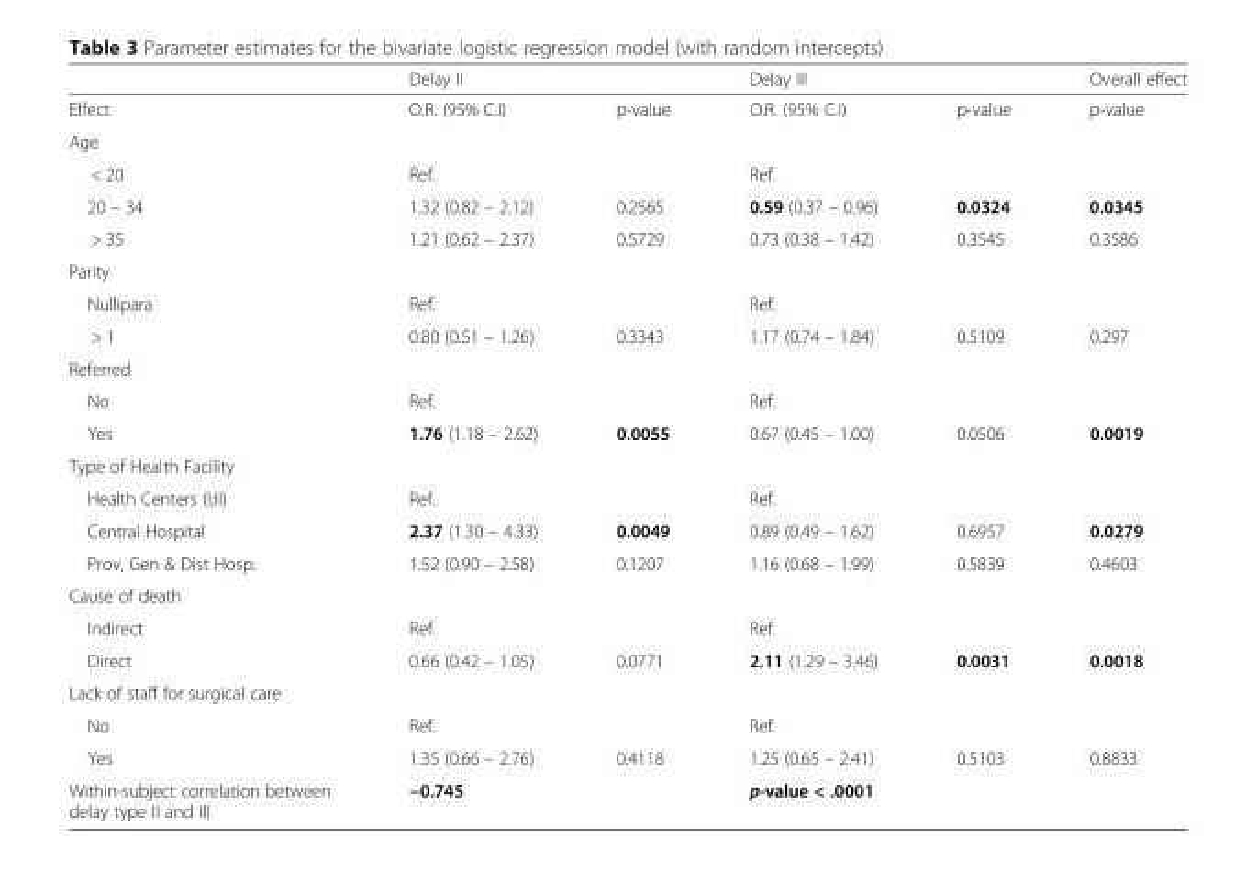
<table><thead><tr><td rowspan="2">Effect</td><td colspan="2">Delay II</td><td colspan="2">Delay III</td><td rowspan="2">Overall effect p-value</td></tr><tr><td>O.R. (95% C.I)</td><td>p-value</td><td>O.R. (95% C.I)</td><td>p-value</td></tr></thead><tbody><tr><td colspan="6">Age</td></tr><tr><td>&lt; 20</td><td>Ref.</td><td></td><td>Ref.</td><td></td><td></td></tr><tr><td>20 – 34</td><td>1.32 (0.82 – 2.12)</td><td>0.2565</td><td>0.59 (0.37 – 0.96)</td><td>0.0324</td><td>0.0345</td></tr><tr><td>&gt; 35</td><td>1.21 (0.62 – 2.37)</td><td>0.5729</td><td>0.73 (0.38 – 1.42)</td><td>0.3545</td><td>0.3586</td></tr><tr><td colspan="6">Parity</td></tr><tr><td>Nullipara</td><td>Ref.</td><td></td><td>Ref.</td><td></td><td></td></tr><tr><td>&gt; 1</td><td>0.80 (0.51 – 1.26)</td><td>0.3343</td><td>1.17 (0.74 – 1.84)</td><td>0.5109</td><td>0.297</td></tr><tr><td colspan="6">Referred</td></tr><tr><td>No</td><td>Ref.</td><td></td><td>Ref.</td><td></td><td></td></tr><tr><td>Yes</td><td>1.76 (1.18 – 2.62)</td><td>0.0055</td><td>0.67 (0.45 – 1.00)</td><td>0.0506</td><td>0.0019</td></tr><tr><td colspan="6">Type of Health Facility</td></tr><tr><td>Health Centers (I;II)</td><td>Ref.</td><td></td><td>Ref.</td><td></td><td></td></tr><tr><td>Central Hospital</td><td>2.37 (1.30 – 4.33)</td><td>0.0049</td><td>0.89 (0.49 – 1.62)</td><td>0.6957</td><td>0.0279</td></tr><tr><td>Prov, Gen &amp; Dist Hosp.</td><td>1.52 (0.90 – 2.58)</td><td>0.1207</td><td>1.16 (0.68 – 1.99)</td><td>0.5839</td><td>0.4603</td></tr><tr><td colspan="6">Cause of death</td></tr><tr><td>Indirect</td><td>Ref.</td><td></td><td>Ref.</td><td></td><td></td></tr><tr><td>Direct</td><td>0.66 (0.42 – 1.05)</td><td>0.0771</td><td>2.11 (1.29 – 3.46)</td><td>0.0031</td><td>0.0018</td></tr><tr><td colspan="6">Lack of staff for surgical care</td></tr><tr><td>No</td><td>Ref.</td><td></td><td>Ref.</td><td></td><td></td></tr><tr><td>Yes</td><td>1.35 (0.66 – 2.76)</td><td>0.4118</td><td>1.25 (0.65 – 2.41)</td><td>0.5103</td><td>0.8833</td></tr><tr><td>Within-subject correlation between delay type II and III</td><td colspan="2">−0.745</td><td colspan="2">p-value &lt; .0001</td><td></td></tr></tbody></table>